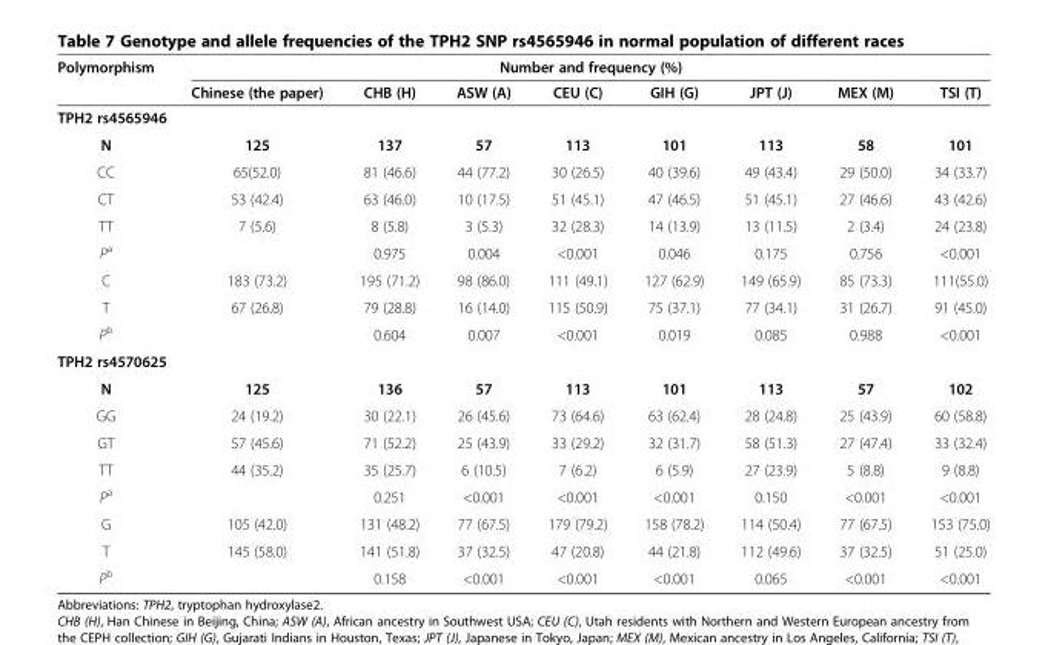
<table><thead><tr><td rowspan="2">Polymorphism</td><td colspan="8">Number and frequency (%)</td></tr><tr><td>Chinese (the paper)</td><td>CHB (H)</td><td>ASW (A)</td><td>CEU (C)</td><td>GIH (G)</td><td>JPT (J)</td><td>MEX (M)</td><td>TSI (T)</td></tr></thead><tbody><tr><td colspan="9">TPH2 rs4565946</td></tr><tr><td>N</td><td>125</td><td>137</td><td>57</td><td>113</td><td>101</td><td>113</td><td>58</td><td>101</td></tr><tr><td>CC</td><td>65(52.0)</td><td>81 (46.6)</td><td>44 (77.2)</td><td>30 (26.5)</td><td>40 (39.6)</td><td>49 (43.4)</td><td>29 (50.0)</td><td>34 (33.7)</td></tr><tr><td>CT</td><td>53 (42.4)</td><td>63 (46.0)</td><td>10 (17.5)</td><td>51 (45.1)</td><td>47 (46.5)</td><td>51 (45.1)</td><td>27 (46.6)</td><td>43 (42.6)</td></tr><tr><td>TT</td><td>7 (5.6)</td><td>8 (5.8)</td><td>3 (5.3)</td><td>32 (28.3)</td><td>14 (13.9)</td><td>13 (11.5)</td><td>2 (3.4)</td><td>24 (23.8)</td></tr><tr><td>P<sup>a</sup></td><td></td><td>0.975</td><td>0.004</td><td>&lt;0.001</td><td>0.046</td><td>0.175</td><td>0.756</td><td>&lt;0.001</td></tr><tr><td>C</td><td>183 (73.2)</td><td>195 (71.2)</td><td>98 (86.0)</td><td>111 (49.1)</td><td>127 (62.9)</td><td>149 (65.9)</td><td>85 (73.3)</td><td>111(55.0)</td></tr><tr><td>T</td><td>67 (26.8)</td><td>79 (28.8)</td><td>16 (14.0)</td><td>115 (50.9)</td><td>75 (37.1)</td><td>77 (34.1)</td><td>31 (26.7)</td><td>91 (45.0)</td></tr><tr><td>P<sup>b</sup></td><td></td><td>0.604</td><td>0.007</td><td>&lt;0.001</td><td>0.019</td><td>0.085</td><td>0.988</td><td>&lt;0.001</td></tr><tr><td colspan="9">TPH2 rs4570625</td></tr><tr><td>N</td><td>125</td><td>136</td><td>57</td><td>113</td><td>101</td><td>113</td><td>57</td><td>102</td></tr><tr><td>GG</td><td>24 (19.2)</td><td>30 (22.1)</td><td>26 (45.6)</td><td>73 (64.6)</td><td>63 (62.4)</td><td>28 (24.8)</td><td>25 (43.9)</td><td>60 (58.8)</td></tr><tr><td>GT</td><td>57 (45.6)</td><td>71 (52.2)</td><td>25 (43.9)</td><td>33 (29.2)</td><td>32 (31.7)</td><td>58 (51.3)</td><td>27 (47.4)</td><td>33 (32.4)</td></tr><tr><td>TT</td><td>44 (35.2)</td><td>35 (25.7)</td><td>6 (10.5)</td><td>7 (6.2)</td><td>6 (5.9)</td><td>27 (23.9)</td><td>5 (8.8)</td><td>9 (8.8)</td></tr><tr><td>P<sup>a</sup></td><td></td><td>0.251</td><td>&lt;0.001</td><td>&lt;0.001</td><td>&lt;0.001</td><td>0.150</td><td>&lt;0.001</td><td>&lt;0.001</td></tr><tr><td>G</td><td>105 (42.0)</td><td>131 (48.2)</td><td>77 (67.5)</td><td>179 (79.2)</td><td>158 (78.2)</td><td>114 (50.4)</td><td>77 (67.5)</td><td>153 (75.0)</td></tr><tr><td>T</td><td>145 (58.0)</td><td>141 (51.8)</td><td>37 (32.5)</td><td>47 (20.8)</td><td>44 (21.8)</td><td>112 (49.6)</td><td>37 (32.5)</td><td>51 (25.0)</td></tr><tr><td>P<sup>b</sup></td><td></td><td>0.158</td><td>&lt;0.001</td><td>&lt;0.001</td><td>&lt;0.001</td><td>0.065</td><td>&lt;0.001</td><td>&lt;0.001</td></tr></tbody></table>